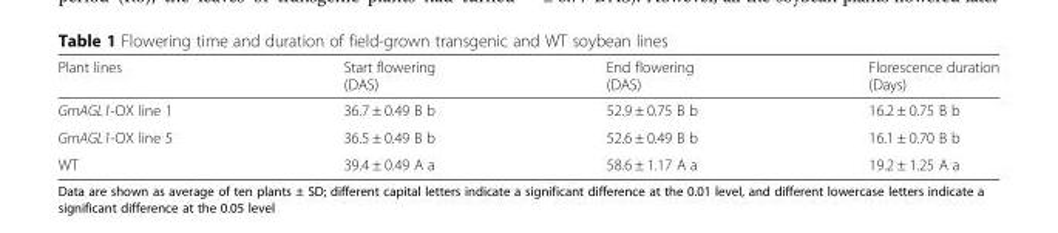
<table><thead><tr><td>Plant lines</td><td>Start flowering (DAS)</td><td>End flowering (DAS)</td><td>Florescence duration (Days)</td></tr></thead><tbody><tr><td>GmAGL1-OX line 1</td><td>36.7 ± 0.49 B b</td><td>52.9 ± 0.75 B b</td><td>16.2 ± 0.75 B b</td></tr><tr><td>GmAGL1-OX line 5</td><td>36.5 ± 0.49 B b</td><td>52.6 ± 0.49 B b</td><td>16.1 ± 0.70 B b</td></tr><tr><td>WT</td><td>39.4 ± 0.49 A a</td><td>58.6 ± 1.17 A a</td><td>19.2 ± 1.25 A a</td></tr></tbody></table>